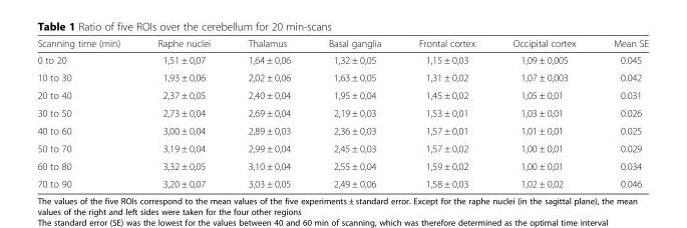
<table><thead><tr><td>Scanning time (min)</td><td>Raphe nuclei</td><td>Thalamus</td><td>Basal ganglia</td><td>Frontal cortex</td><td>Occipital cortex</td><td>Mean SE</td></tr></thead><tbody><tr><td>0 to 20</td><td>1,51 ± 0,07</td><td>1,64 ± 0,06</td><td>1,32 ± 0,05</td><td>1,15 ± 0,03</td><td>1,09 ± 0,005</td><td>0.045</td></tr><tr><td>10 to 30</td><td>1,93 ± 0,06</td><td>2,02 ± 0,06</td><td>1,63 ± 0,05</td><td>1,31 ± 0,02</td><td>1,07 ± 0,003</td><td>0.042</td></tr><tr><td>20 to 40</td><td>2,37 ± 0,05</td><td>2,40 ± 0,04</td><td>1,95 ± 0,04</td><td>1,45 ± 0,02</td><td>1,05 ± 0,01</td><td>0.031</td></tr><tr><td>30 to 50</td><td>2,73 ± 0,04</td><td>2,69 ± 0,04</td><td>2,19 ± 0,03</td><td>1,53 ± 0,01</td><td>1,03 ± 0,01</td><td>0.026</td></tr><tr><td>40 to 60</td><td>3,00 ± 0,04</td><td>2,89 ± 0,03</td><td>2,36 ± 0,03</td><td>1,57 ± 0,01</td><td>1,01 ± 0,01</td><td>0.025</td></tr><tr><td>50 to 70</td><td>3,19 ± 0,04</td><td>2,99 ± 0,04</td><td>2,45 ± 0,03</td><td>1,57 ± 0,02</td><td>1,00 ± 0,01</td><td>0.029</td></tr><tr><td>60 to 80</td><td>3,32 ± 0,05</td><td>3,10 ± 0,04</td><td>2,55 ± 0,04</td><td>1,59 ± 0,02</td><td>1,00 ± 0,01</td><td>0.034</td></tr><tr><td>70 to 90</td><td>3,20 ± 0,07</td><td>3,03 ± 0,05</td><td>2,49 ± 0,06</td><td>1,58 ± 0,03</td><td>1,02 ± 0,02</td><td>0.046</td></tr></tbody></table>